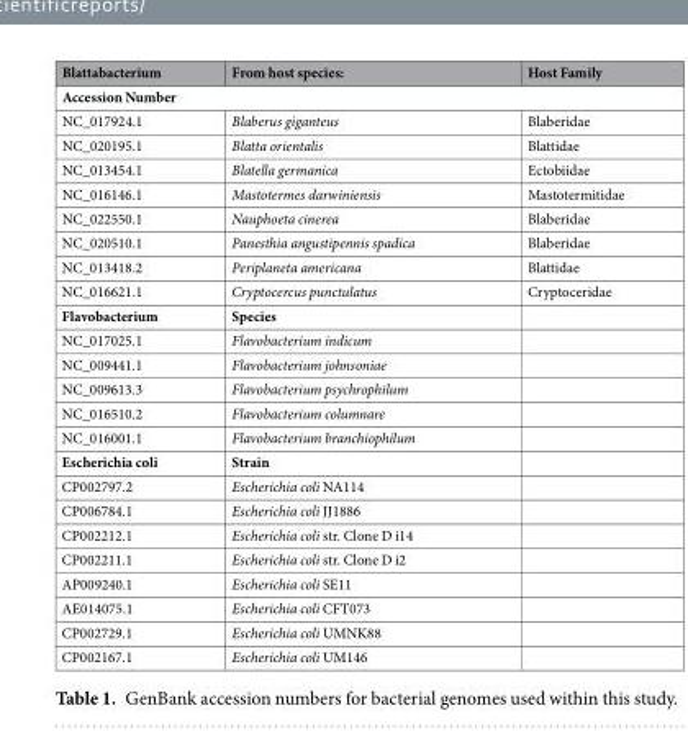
<table><thead><tr><td>Blattabacterium</td><td>From host species:</td><td>Host Family</td></tr></thead><tbody><tr><td colspan="3">Accession Number</td></tr><tr><td>NC_017924.1</td><td>Blaberus giganteus</td><td>Blaberidae</td></tr><tr><td>NC_020195.1</td><td>Blatta orientalis</td><td>Blattidae</td></tr><tr><td>NC_013454.1</td><td>Blatella germanica</td><td>Ectobiidae</td></tr><tr><td>NC_016146.1</td><td>Mastotermes darwiniensis</td><td>Mastotermitidae</td></tr><tr><td>NC_022550.1</td><td>Nauphoeta cinerea</td><td>Blaberidae</td></tr><tr><td>NC_020510.1</td><td>Panesthia angustipennis spadica</td><td>Blaberidae</td></tr><tr><td>NC_013418.2</td><td>Periplaneta americana</td><td>Blattidae</td></tr><tr><td>NC_016621.1</td><td>Cryptocercus punctulatus</td><td>Cryptoceridae</td></tr><tr><td>Flavobacterium</td><td>Species</td><td></td></tr><tr><td>NC_017025.1</td><td>Flavobacterium indicum</td><td></td></tr><tr><td>NC_009441.1</td><td>Flavobacterium johnsoniae</td><td></td></tr><tr><td>NC_009613.3</td><td>Flavobacterium psychrophilum</td><td></td></tr><tr><td>NC_016510.2</td><td>Flavobacterium columnare</td><td></td></tr><tr><td>NC_016001.1</td><td>Flavobacterium branchiophilum</td><td></td></tr><tr><td>Escherichia coli</td><td>Strain</td><td></td></tr><tr><td>CP002797.2</td><td>Escherichia coli NA114</td><td></td></tr><tr><td>CP006784.1</td><td>Escherichia coli JJ1886</td><td></td></tr><tr><td>CP002212.1</td><td>Escherichia coli str. Clone D i14</td><td></td></tr><tr><td>CP002211.1</td><td>Escherichia coli str. Clone D i2</td><td></td></tr><tr><td>AP009240.1</td><td>Escherichia coli SE11</td><td></td></tr><tr><td>AE014075.1</td><td>Escherichia coli CFT073</td><td></td></tr><tr><td>CP002729.1</td><td>Escherichia coli UMNK88</td><td></td></tr><tr><td>CP002167.1</td><td>Escherichia coli UM146</td><td></td></tr></tbody></table>